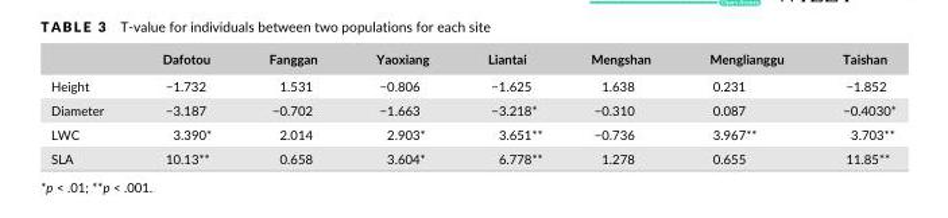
<table><thead><tr><td></td><td>Dafotou</td><td>Fanggan</td><td>Yaoxiang</td><td>Liantai</td><td>Mengshan</td><td>Menglianggu</td><td>Taishan</td></tr></thead><tbody><tr><td>Height</td><td>−1.732</td><td>1.531</td><td>−0.806</td><td>−1.625</td><td>1.638</td><td>0.231</td><td>−1.852</td></tr><tr><td>Diameter</td><td>−3.187</td><td>−0.702</td><td>−1.663</td><td>−3.218*</td><td>−0.310</td><td>0.087</td><td>−0.4030*</td></tr><tr><td>LWC</td><td>3.390*</td><td>2.014</td><td>2.903*</td><td>3.651**</td><td>−0.736</td><td>3.967**</td><td>3.703**</td></tr><tr><td>SLA</td><td>10.13**</td><td>0.658</td><td>3.604*</td><td>6.778**</td><td>1.278</td><td>0.655</td><td>11.85**</td></tr></tbody></table>